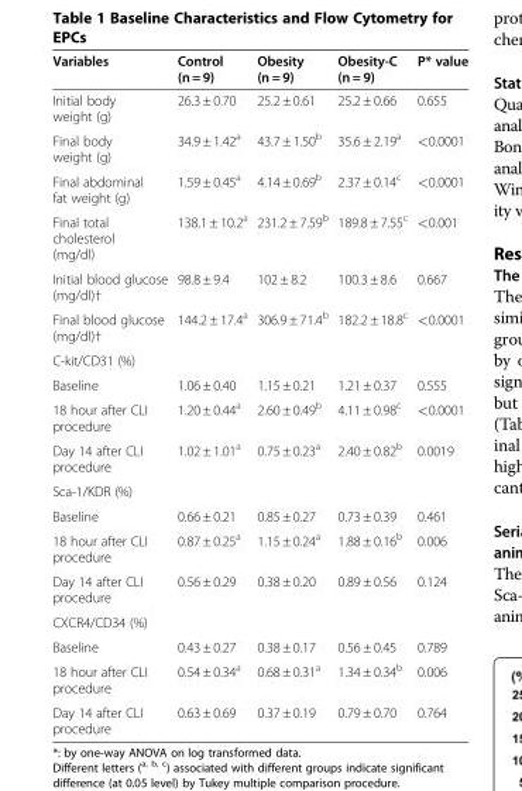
<table><thead><tr><td>Variables</td><td>Control (n = 9)</td><td>Obesity (n = 9)</td><td>Obesity-C (n = 9)</td><td>P* value</td></tr></thead><tbody><tr><td>Initial body weight (g)</td><td>26.3 ± 0.70</td><td>25.2 ± 0.61</td><td>25.2 ± 0.66</td><td>0.655</td></tr><tr><td>Final body weight (g)</td><td>34.9 ± 1.42<sup>a</sup></td><td>43.7 ± 1.50<sup>b</sup></td><td>35.6 ± 2.19<sup>a</sup></td><td>&lt;0.0001</td></tr><tr><td>Final abdominal fat weight (g)</td><td>1.59 ± 0.45<sup>a</sup></td><td>4.14 ± 0.69<sup>b</sup></td><td>2.37 ± 0.14<sup>c</sup></td><td>&lt;0.0001</td></tr><tr><td>Final total cholesterol (mg/dl)</td><td>138.1 ± 10.2<sup>a</sup></td><td>231.2 ± 7.59<sup>b</sup></td><td>189.8 ± 7.55<sup>c</sup></td><td>&lt;0.001</td></tr><tr><td>Initial blood glucose (mg/dl)†</td><td>98.8 ± 9.4</td><td>102 ± 8.2</td><td>100.3 ± 8.6</td><td>0.667</td></tr><tr><td>Final blood glucose (mg/dl)†</td><td>144.2 ± 17.4<sup>a</sup></td><td>306.9 ± 71.4<sup>b</sup></td><td>182.2 ± 18.8<sup>c</sup></td><td>&lt;0.0001</td></tr><tr><td colspan="5">C-kit/CD31 (%)</td></tr><tr><td>Baseline</td><td>1.06 ± 0.40</td><td>1.15 ± 0.21</td><td>1.21 ± 0.37</td><td>0.555</td></tr><tr><td>18 hour after CLI procedure</td><td>1.20 ± 0.44<sup>a</sup></td><td>2.60 ± 0.49<sup>b</sup></td><td>4.11 ± 0.98<sup>c</sup></td><td>&lt;0.0001</td></tr><tr><td>Day 14 after CLI procedure</td><td>1.02 ± 1.01<sup>a</sup></td><td>0.75 ± 0.23<sup>a</sup></td><td>2.40 ± 0.82<sup>b</sup></td><td>0.0019</td></tr><tr><td colspan="5">Sca-1/KDR (%)</td></tr><tr><td>Baseline</td><td>0.66 ± 0.21</td><td>0.85 ± 0.27</td><td>0.73 ± 0.39</td><td>0.461</td></tr><tr><td>18 hour after CLI procedure</td><td>0.87 ± 0.25<sup>a</sup></td><td>1.15 ± 0.24<sup>a</sup></td><td>1.88 ± 0.16<sup>b</sup></td><td>0.006</td></tr><tr><td>Day 14 after CLI procedure</td><td>0.56 ± 0.29</td><td>0.38 ± 0.20</td><td>0.89 ± 0.56</td><td>0.124</td></tr><tr><td colspan="5">CXCR4/CD34 (%)</td></tr><tr><td>Baseline</td><td>0.43 ± 0.27</td><td>0.38 ± 0.17</td><td>0.56 ± 0.45</td><td>0.789</td></tr><tr><td>18 hour after CLI procedure</td><td>0.54 ± 0.34<sup>a</sup></td><td>0.68 ± 0.31<sup>a</sup></td><td>1.34 ± 0.34<sup>b</sup></td><td>0.006</td></tr><tr><td>Day 14 after CLI procedure</td><td>0.63 ± 0.69</td><td>0.37 ± 0.19</td><td>0.79 ± 0.70</td><td>0.764</td></tr></tbody></table>